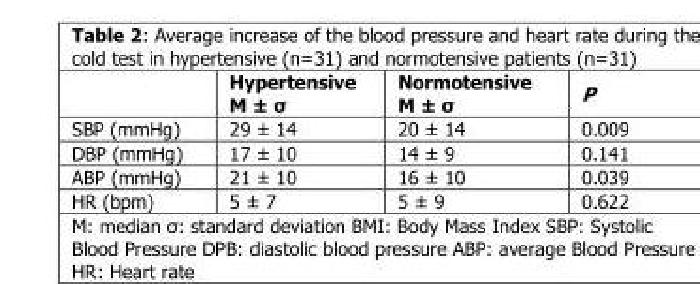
<table><thead><tr><td></td><td>Hypertensive M ± σ</td><td>Normotensive M ± σ</td><td>P</td></tr></thead><tbody><tr><td>SBP (mmHg)</td><td>29 ± 14</td><td>20 ± 14</td><td>0.009</td></tr><tr><td>DBP (mmHg)</td><td>17 ± 10</td><td>14 ± 9</td><td>0.141</td></tr><tr><td>ABP (mmHg)</td><td>21 ± 10</td><td>16 ± 10</td><td>0.039</td></tr><tr><td>HR (bpm)</td><td>5 ± 7</td><td>5 ± 9</td><td>0.622</td></tr></tbody></table>